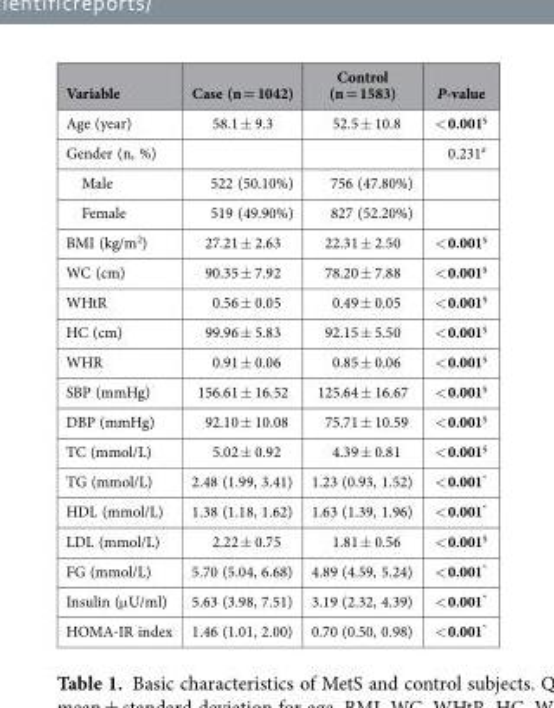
<table><thead><tr><td>Variable</td><td>Case (n = 1042)</td><td>Control (n = 1583)</td><td>P-value</td></tr></thead><tbody><tr><td>Age (year)</td><td>58.1 ± 9.3</td><td>52.5 ± 10.8</td><td>&lt; 0.001§</td></tr><tr><td>Gender (n, %)</td><td></td><td></td><td>0.231#</td></tr><tr><td>Male</td><td>522 (50.10%)</td><td>756 (47.80%)</td><td></td></tr><tr><td>Female</td><td>519 (49.90%)</td><td>827 (52.20%)</td><td></td></tr><tr><td>BMI (kg/m<sup>2</sup>)</td><td>27.21 ± 2.63</td><td>22.31 ± 2.50</td><td>&lt; 0.001§</td></tr><tr><td>WC (cm)</td><td>90.35 ± 7.92</td><td>78.20 ± 7.88</td><td>&lt; 0.001§</td></tr><tr><td>WHtR</td><td>0.56 ± 0.05</td><td>0.49 ± 0.05</td><td>&lt; 0.001§</td></tr><tr><td>HC (cm)</td><td>99.96 ± 5.83</td><td>92.15 ± 5.50</td><td>&lt; 0.001§</td></tr><tr><td>WHR</td><td>0.91 ± 0.06</td><td>0.85 ± 0.06</td><td>&lt; 0.001§</td></tr><tr><td>SBP (mmHg)</td><td>156.61 ± 16.52</td><td>125.64 ± 16.67</td><td>&lt; 0.001§</td></tr><tr><td>DBP (mmHg)</td><td>92.10 ± 10.08</td><td>75.71 ± 10.59</td><td>&lt; 0.001§</td></tr><tr><td>TC (mmol/L)</td><td>5.02 ± 0.92</td><td>4.39 ± 0.81</td><td>&lt; 0.001§</td></tr><tr><td>TG (mmol/L)</td><td>2.48 (1.99, 3.41)</td><td>1.23 (0.93, 1.52)</td><td>&lt; 0.001*</td></tr><tr><td>HDL (mmol/L)</td><td>1.38 (1.18, 1.62)</td><td>1.63 (1.39, 1.96)</td><td>&lt; 0.001*</td></tr><tr><td>LDL (mmol/L)</td><td>2.22 ± 0.75</td><td>1.81 ± 0.56</td><td>&lt; 0.001§</td></tr><tr><td>FG (mmol/L)</td><td>5.70 (5.04, 6.68)</td><td>4.89 (4.59, 5.24)</td><td>&lt; 0.001*</td></tr><tr><td>Insulin (μ U/ml)</td><td>5.63 (3.98, 7.51)</td><td>3.19 (2.32, 4.39)</td><td>&lt; 0.001*</td></tr><tr><td>HOMA-IR index</td><td>1.46 (1.01, 2.00)</td><td>0.70 (0.50, 0.98)</td><td>&lt; 0.001*</td></tr></tbody></table>